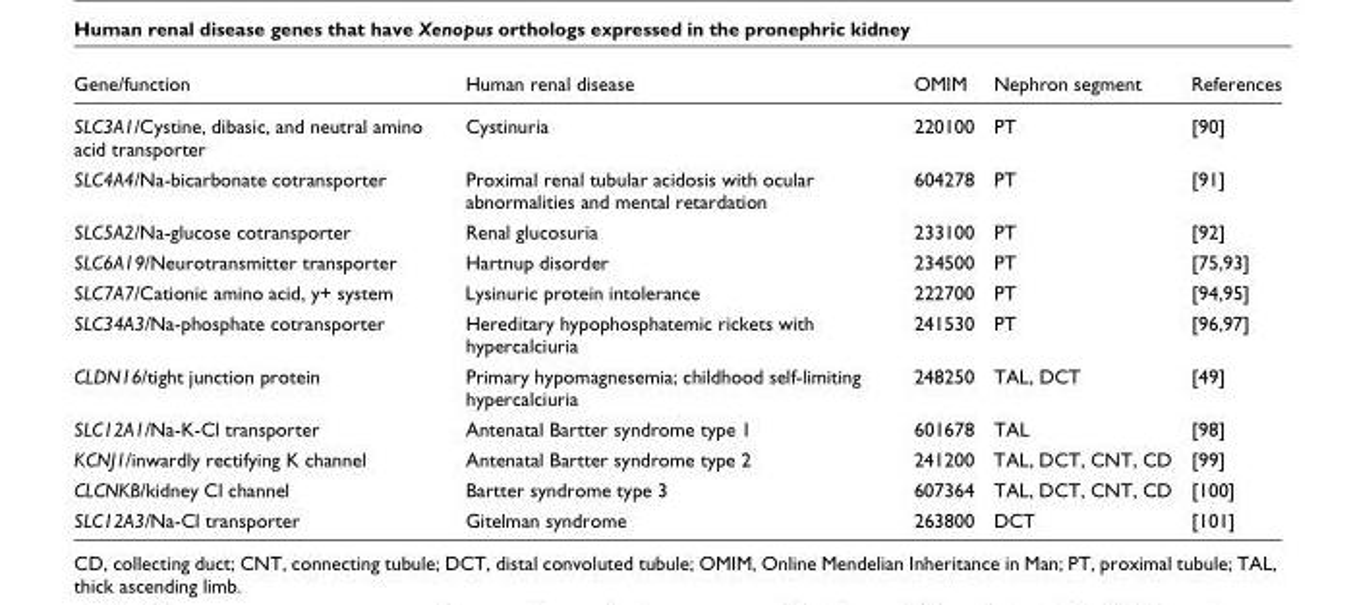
<table><thead><tr><td>Gene/function</td><td>Human renal disease</td><td>OMIM</td><td>Nephron segment</td><td>References</td></tr></thead><tbody><tr><td>SLC3A1/Cystine, dibasic, and neutral amino acid transporter</td><td>Cystinuria</td><td>220100</td><td>PT</td><td>[90]</td></tr><tr><td>SLC4A4/Na-bicarbonate cotransporter</td><td>Proximal renal tubular acidosis with ocular abnormalities and mental retardation</td><td>604278</td><td>PT</td><td>[91]</td></tr><tr><td>SLC5A2/Na-glucose cotransporter</td><td>Renal glucosuria</td><td>233100</td><td>PT</td><td>[92]</td></tr><tr><td>SLC6A19/Neurotransmitter transporter</td><td>Hartnup disorder</td><td>234500</td><td>PT</td><td>[75,93]</td></tr><tr><td>SLC7A7/Cationic amino acid, y+ system</td><td>Lysinuric protein intolerance</td><td>222700</td><td>PT</td><td>[94,95]</td></tr><tr><td>SLC34A3/Na-phosphate cotransporter</td><td>Hereditary hypophosphatemic rickets with hypercalciuria</td><td>241530</td><td>PT</td><td>[96,97]</td></tr><tr><td>CLDN16/tight junction protein</td><td>Primary hypomagnesemia; childhood self-limiting hypercalciuria</td><td>248250</td><td>TAL, DCT</td><td>[49]</td></tr><tr><td>SLC12A1/Na-K-Cl transporter</td><td>Antenatal Bartter syndrome type 1</td><td>601678</td><td>TAL</td><td>[98]</td></tr><tr><td>KCNJ1/inwardly rectifying K channel</td><td>Antenatal Bartter syndrome type 2</td><td>241200</td><td>TAL, DCT, CNT, CD</td><td>[99]</td></tr><tr><td>CLCNKB/kidney Cl channel</td><td>Bartter syndrome type 3</td><td>607364</td><td>TAL, DCT, CNT, CD</td><td>[100]</td></tr><tr><td>SLC12A3/Na-Cl transporter</td><td>Gitelman syndrome</td><td>263800</td><td>DCT</td><td>[101]</td></tr></tbody></table>